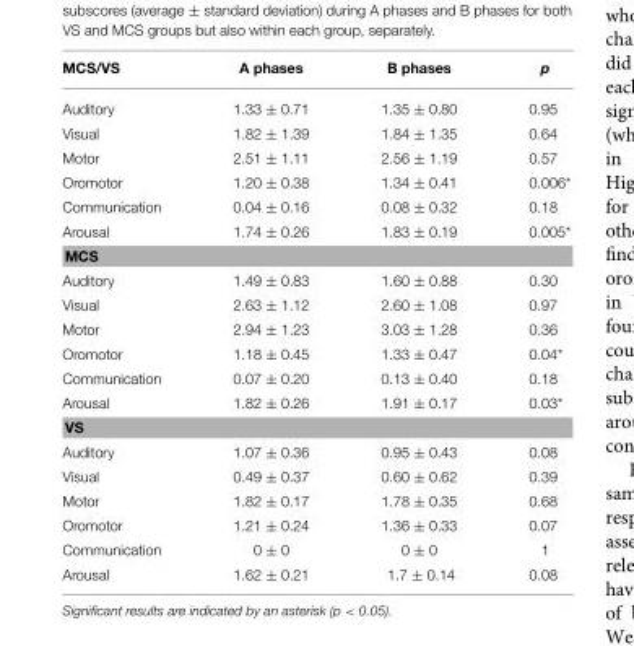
<table><thead><tr><td>MCS/VS</td><td>A phases</td><td>B phases</td><td>p</td></tr></thead><tbody><tr><td>Auditory</td><td>1.33 ± 0.71</td><td>1.35 ± 0.80</td><td>0.95</td></tr><tr><td>Visual</td><td>1.82 ± 1.39</td><td>1.84 ± 1.35</td><td>0.64</td></tr><tr><td>Motor</td><td>2.51 ± 1.11</td><td>2.56 ± 1.19</td><td>0.57</td></tr><tr><td>Oromotor</td><td>1.20 ± 0.38</td><td>1.34 ± 0.41</td><td>0.006*</td></tr><tr><td>Communication</td><td>0.04 ± 0.16</td><td>0.08 ± 0.32</td><td>0.18</td></tr><tr><td>Arousal</td><td>1.74 ± 0.26</td><td>1.83 ± 0.19</td><td>0.005*</td></tr><tr><td colspan="4">MCS</td></tr><tr><td>Auditory</td><td>1.49 ± 0.83</td><td>1.60 ± 0.88</td><td>0.30</td></tr><tr><td>Visual</td><td>2.63 ± 1.12</td><td>2.60 ± 1.08</td><td>0.97</td></tr><tr><td>Motor</td><td>2.94 ± 1.23</td><td>3.03 ± 1.28</td><td>0.36</td></tr><tr><td>Oromotor</td><td>1.18 ± 0.45</td><td>1.33 ± 0.47</td><td>0.04*</td></tr><tr><td>Communication</td><td>0.07 ± 0.20</td><td>0.13 ± 0.40</td><td>0.18</td></tr><tr><td>Arousal</td><td>1.82 ± 0.26</td><td>1.91 ± 0.17</td><td>0.03*</td></tr><tr><td colspan="4">VS</td></tr><tr><td>Auditory</td><td>1.07 ± 0.36</td><td>0.95 ± 0.43</td><td>0.08</td></tr><tr><td>Visual</td><td>0.49 ± 0.37</td><td>0.60 ± 0.62</td><td>0.39</td></tr><tr><td>Motor</td><td>1.82 ± 0.17</td><td>1.78 ± 0.35</td><td>0.68</td></tr><tr><td>Oromotor</td><td>1.21 ± 0.24</td><td>1.36 ± 0.33</td><td>0.07</td></tr><tr><td>Communication</td><td>0 ± 0</td><td>0 ± 0</td><td>1</td></tr><tr><td>Arousal</td><td>1.62 ± 0.21</td><td>1.7 ± 0.14</td><td>0.08</td></tr></tbody></table>